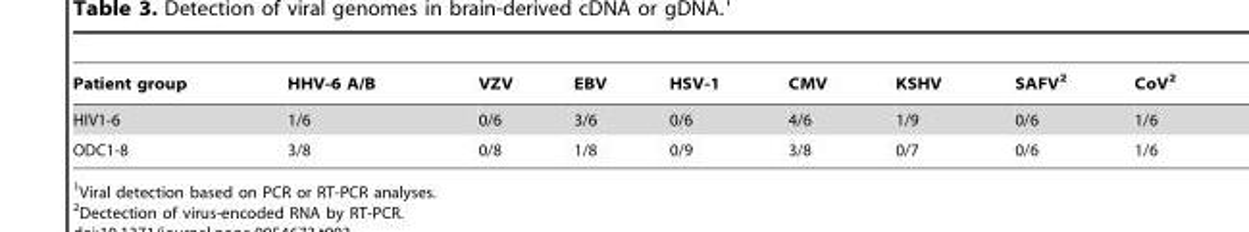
<table><thead><tr><td>Patient group</td><td>HHV-6 A/B</td><td>VZV</td><td>EBV</td><td>HSV-1</td><td>CMV</td><td>KSHV</td><td>SAFV<sup>2</sup></td><td>CoV<sup>2</sup></td></tr></thead><tbody><tr><td>HIV1-6</td><td>1/6</td><td>0/6</td><td>3/6</td><td>0/6</td><td>4/6</td><td>1/9</td><td>0/6</td><td>1/6</td></tr><tr><td>ODC1-8</td><td>3/8</td><td>0/8</td><td>1/8</td><td>0/9</td><td>3/8</td><td>0/7</td><td>0/6</td><td>1/6</td></tr></tbody></table>